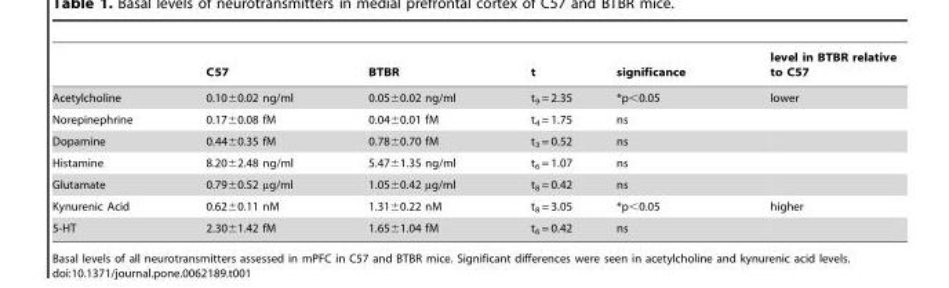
<table><thead><tr><td></td><td>C57</td><td>BTBR</td><td>t</td><td>significance</td><td>level in BTBR relative to C57</td></tr></thead><tbody><tr><td>Acetylcholine</td><td>0.10±0.02 ng/ml</td><td>0.05±0.02 ng/ml</td><td>t<sub>9</sub> = 2.35</td><td>*p&lt;0.05</td><td>lower</td></tr><tr><td>Norepinephrine</td><td>0.17±0.08 fM</td><td>0.04±0.01 fM</td><td>t<sub>4</sub> = 1.75</td><td>ns</td><td></td></tr><tr><td>Dopamine</td><td>0.44±0.35 fM</td><td>0.78±0.70 fM</td><td>t<sub>3</sub> = 0.52</td><td>ns</td><td></td></tr><tr><td>Histamine</td><td>8.20±2.48 ng/ml</td><td>5.47±1.35 ng/ml</td><td>t<sub>6</sub> = 1.07</td><td>ns</td><td></td></tr><tr><td>Glutamate</td><td>0.79±0.52 µg/ml</td><td>1.05±0.42 µg/ml</td><td>t<sub>8</sub> = 0.42</td><td>ns</td><td></td></tr><tr><td>Kynurenic Acid</td><td>0.62±0.11 nM</td><td>1.31±0.22 nM</td><td>t<sub>8</sub> = 3.05</td><td>*p&lt;0.05</td><td>higher</td></tr><tr><td>5-HT</td><td>2.30±1.42 fM</td><td>1.65±1.04 fM</td><td>t<sub>6</sub> = 0.42</td><td>ns</td><td></td></tr></tbody></table>